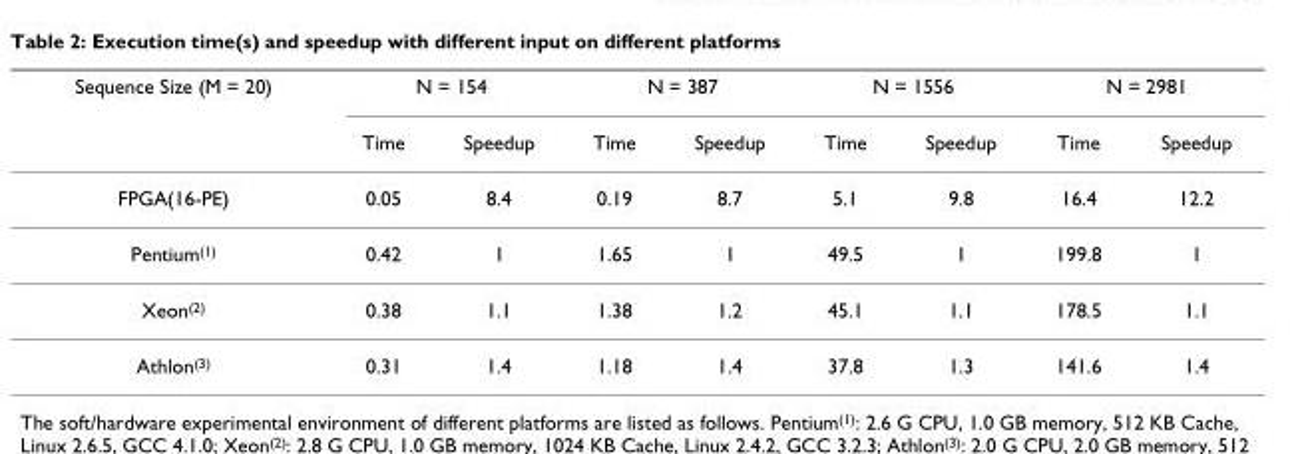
<table><thead><tr><td rowspan="2">Sequence Size (M = 20)</td><td colspan="2">N = 154</td><td colspan="2">N = 387</td><td colspan="2">N = 1556</td><td colspan="2">N = 2981</td></tr><tr><td>Time</td><td>Speedup</td><td>Time</td><td>Speedup</td><td>Time</td><td>Speedup</td><td>Time</td><td>Speedup</td></tr></thead><tbody><tr><td>FPGA(16-PE)</td><td>0.05</td><td>8.4</td><td>0.19</td><td>8.7</td><td>5.1</td><td>9.8</td><td>16.4</td><td>12.2</td></tr><tr><td>Pentium<sup>(1)</sup></td><td>0.42</td><td>1</td><td>1.65</td><td>1</td><td>49.5</td><td>1</td><td>199.8</td><td>1</td></tr><tr><td>Xeon<sup>(2)</sup></td><td>0.38</td><td>1.1</td><td>1.38</td><td>1.2</td><td>45.1</td><td>1.1</td><td>178.5</td><td>1.1</td></tr><tr><td>Athlon<sup>(3)</sup></td><td>0.31</td><td>1.4</td><td>1.18</td><td>1.4</td><td>37.8</td><td>1.3</td><td>141.6</td><td>1.4</td></tr></tbody></table>